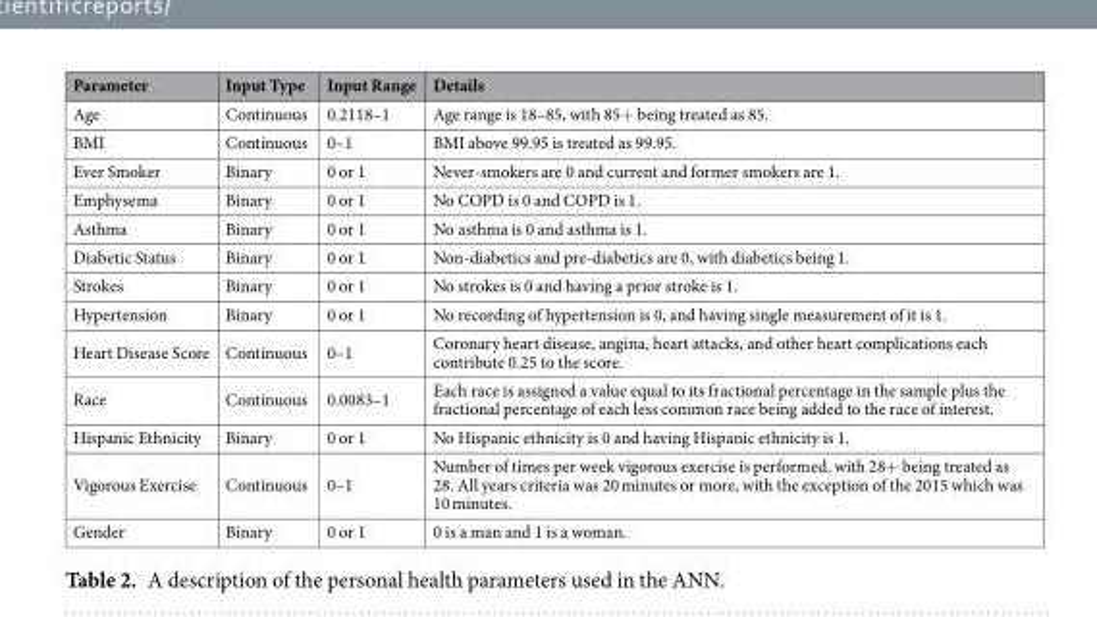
<table><thead><tr><td>Parameter</td><td>Input Type</td><td>Input Range</td><td>Details</td></tr></thead><tbody><tr><td>Age</td><td>Continuous</td><td>0.2118–1</td><td>Age range is 18–85, with 85+ being treated as 85.</td></tr><tr><td>BMI</td><td>Continuous</td><td>0–1</td><td>BMI above 99.95 is treated as 99.95.</td></tr><tr><td>Ever Smoker</td><td>Binary</td><td>0 or 1</td><td>Never-smokers are 0 and current and former smokers are 1.</td></tr><tr><td>Emphysema</td><td>Binary</td><td>0 or 1</td><td>No COPD is 0 and COPD is 1.</td></tr><tr><td>Asthma</td><td>Binary</td><td>0 or 1</td><td>No asthma is 0 and asthma is 1.</td></tr><tr><td>Diabetic Status</td><td>Binary</td><td>0 or 1</td><td>Non-diabetics and pre-diabetics are 0, with diabetics being 1.</td></tr><tr><td>Strokes</td><td>Binary</td><td>0 or 1</td><td>No strokes is 0 and having a prior stroke is 1.</td></tr><tr><td>Hypertension</td><td>Binary</td><td>0 or 1</td><td>No recording of hypertension is 0, and having single measurement of it is 1.</td></tr><tr><td>Heart Disease Score</td><td>Continuous</td><td>0–1</td><td>Coronary heart disease, angina, heart attacks, and other heart complications each contribute 0.25 to the score.</td></tr><tr><td>Race</td><td>Continuous</td><td>0.0083–1</td><td>Each race is assigned a value equal to its fractional percentage in the sample plus the fractional percentage of each less common race being added to the race of interest.</td></tr><tr><td>Hispanic Ethnicity</td><td>Binary</td><td>0 or 1</td><td>No Hispanic ethnicity is 0 and having Hispanic ethnicity is 1.</td></tr><tr><td>Vigorous Exercise</td><td>Continuous</td><td>0–1</td><td>Number of times per week vigorous exercise is performed, with 28+ being treated as 28. All years criteria was 20 minutes or more, with the exception of the 2015 which was 10 minutes.</td></tr><tr><td>Gender</td><td>Binary</td><td>0 or 1</td><td>0 is a man and 1 is a woman.</td></tr></tbody></table>